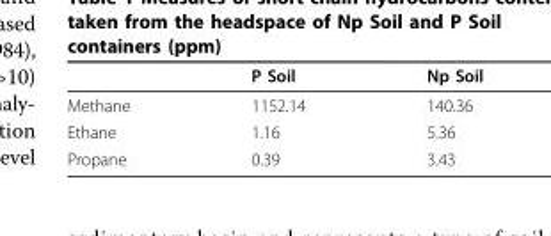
<table><thead><tr><td></td><td>P Soil</td><td>Np Soil</td></tr></thead><tbody><tr><td>Methane</td><td>1152.14</td><td>140.36</td></tr><tr><td>Ethane</td><td>1.16</td><td>5.36</td></tr><tr><td>Propane</td><td>0.39</td><td>3.43</td></tr></tbody></table>